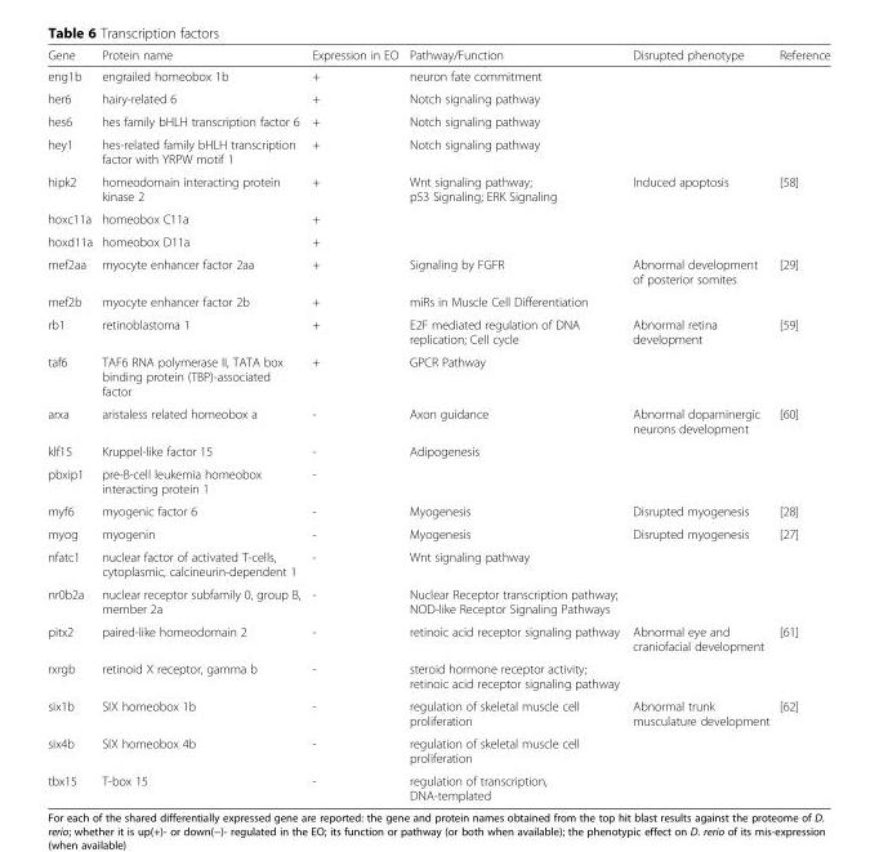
<table><thead><tr><td>Gene</td><td>Protein name</td><td>Expression in EO</td><td>Pathway/Function</td><td>Disrupted phenotype</td><td>Reference</td></tr></thead><tbody><tr><td>eng1b</td><td>engrailed homeobox 1b</td><td>+</td><td>neuron fate commitment</td><td></td><td></td></tr><tr><td>her6</td><td>hairy-related 6</td><td>+</td><td>Notch signaling pathway</td><td></td><td></td></tr><tr><td>hes6</td><td>hes family bHLH transcription factor 6</td><td>+</td><td>Notch signaling pathway</td><td></td><td></td></tr><tr><td>hey1</td><td>hes-related family bHLH transcription factor with YRPW motif 1</td><td>+</td><td>Notch signaling pathway</td><td></td><td></td></tr><tr><td>hipk2</td><td>homeodomain interacting protein kinase 2</td><td>+</td><td>Wnt signaling pathway; p53 Signaling; ERK Signaling</td><td>Induced apoptosis</td><td>[58]</td></tr><tr><td>hoxc11a</td><td>homeobox C11a</td><td>+</td><td></td><td></td><td></td></tr><tr><td>hoxd11a</td><td>homeobox D11a</td><td>+</td><td></td><td></td><td></td></tr><tr><td>mef2aa</td><td>myocyte enhancer factor 2aa</td><td>+</td><td>Signaling by FGFR</td><td>Abnormal development of posterior somites</td><td>[29]</td></tr><tr><td>mef2b</td><td>myocyte enhancer factor 2b</td><td>+</td><td>miRs in Muscle Cell Differentiation</td><td></td><td></td></tr><tr><td>rb1</td><td>retinoblastoma 1</td><td>+</td><td>E2F mediated regulation of DNA replication; Cell cycle</td><td>Abnormal retina development</td><td>[59]</td></tr><tr><td>taf6</td><td>TAF6 RNA polymerase II, TATA box binding protein (TBP)-associated factor</td><td>+</td><td>GPCR Pathway</td><td></td><td></td></tr><tr><td>arxa</td><td>aristaless related homeobox a</td><td>-</td><td>Axon guidance</td><td>Abnormal dopaminergic neurons development</td><td>[60]</td></tr><tr><td>klf15</td><td>Kruppel-like factor 15</td><td>-</td><td>Adipogenesis</td><td></td><td></td></tr><tr><td>pbxip1</td><td>pre-B-cell leukemia homeobox interacting protein 1</td><td>-</td><td></td><td></td><td></td></tr><tr><td>myf6</td><td>myogenic factor 6</td><td>-</td><td>Myogenesis</td><td>Disrupted myogenesis</td><td>[28]</td></tr><tr><td>myog</td><td>myogenin</td><td>-</td><td>Myogenesis</td><td>Disrupted myogenesis</td><td>[27]</td></tr><tr><td>nfatc1</td><td>nuclear factor of activated T-cells, cytoplasmic, calcineurin-dependent 1</td><td>-</td><td>Wnt signaling pathway</td><td></td><td></td></tr><tr><td>nr0b2a</td><td>nuclear receptor subfamily 0, group B, member 2a</td><td>-</td><td>Nuclear Receptor transcription pathway; NOD-like Receptor Signaling Pathways</td><td></td><td></td></tr><tr><td>pitx2</td><td>paired-like homeodomain 2</td><td>-</td><td>retinoic acid receptor signaling pathway</td><td>Abnormal eye and craniofacial development</td><td>[61]</td></tr><tr><td>rxrgb</td><td>retinoid X receptor, gamma b</td><td>-</td><td>steroid hormone receptor activity; retinoic acid receptor signaling pathway</td><td></td><td></td></tr><tr><td>six1b</td><td>SIX homeobox 1b</td><td>-</td><td>regulation of skeletal muscle cell proliferation</td><td>Abnormal trunk musculature development</td><td>[62]</td></tr><tr><td>six4b</td><td>SIX homeobox 4b</td><td>-</td><td>regulation of skeletal muscle cell proliferation</td><td></td><td></td></tr><tr><td>tbx15</td><td>T-box 15</td><td>-</td><td>regulation of transcription, DNA-templated</td><td></td><td></td></tr></tbody></table>